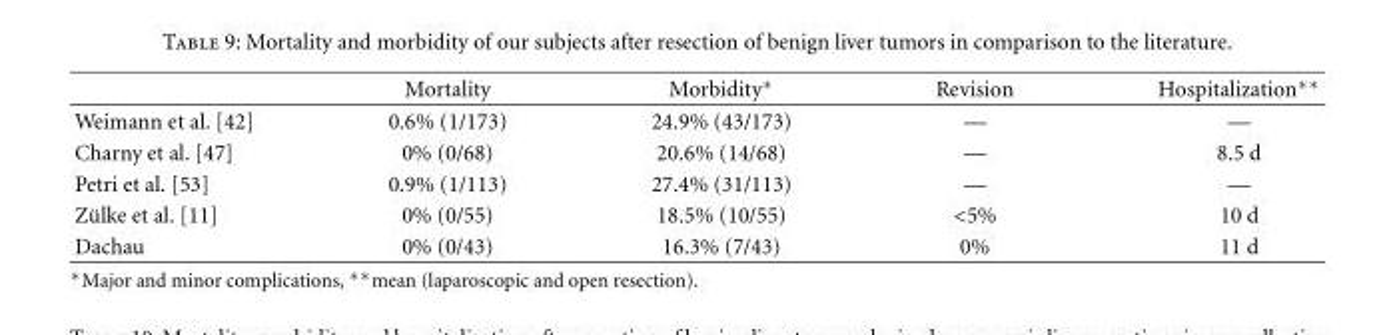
<table><thead><tr><td></td><td>Mortality</td><td>Morbidity∗</td><td>Revision</td><td>Hospitalization∗∗</td></tr></thead><tbody><tr><td>Weimann et al. [42]</td><td>0.6% (1/173)</td><td>24.9% (43/173)</td><td>—</td><td>—</td></tr><tr><td>Charny et al. [47]</td><td>0% (0/68)</td><td>20.6% (14/68)</td><td>—</td><td>8.5 d</td></tr><tr><td>Petri et al. [53]</td><td>0.9% (1/113)</td><td>27.4% (31/113)</td><td>—</td><td>—</td></tr><tr><td>Z¨ulke et al. [11]</td><td>0% (0/55)</td><td>18.5% (10/55)</td><td>&lt;5%</td><td>10 d</td></tr><tr><td>Dachau</td><td>0% (0/43)</td><td>16.3% (7/43)</td><td>0%</td><td>11 d</td></tr></tbody></table>